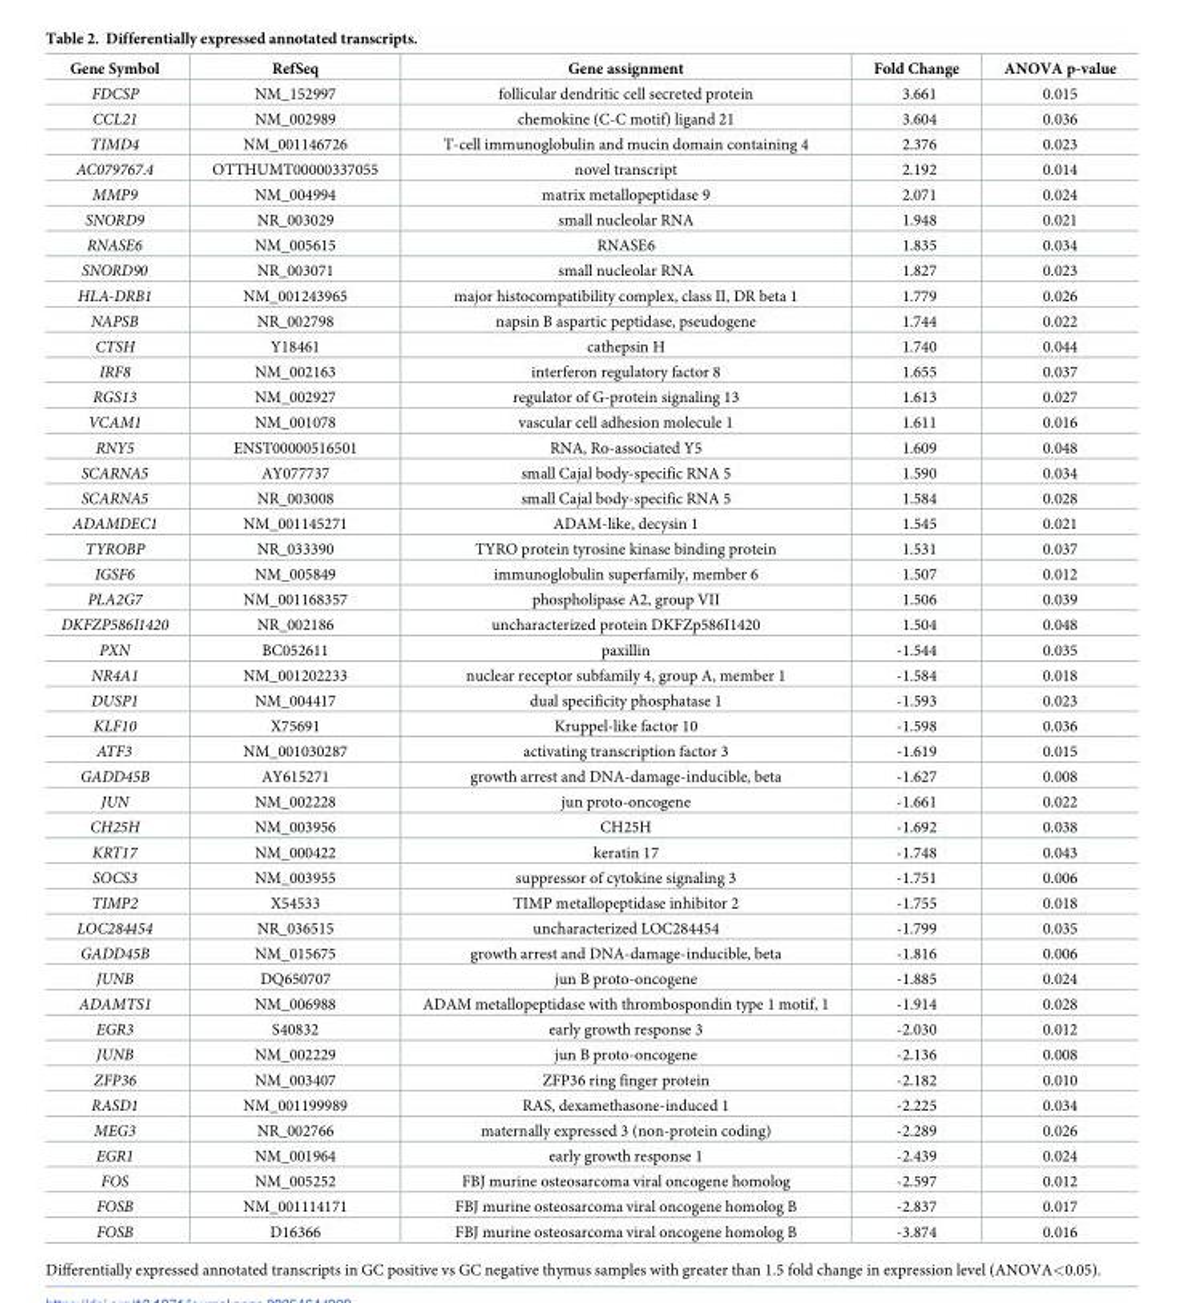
<table><thead><tr><td>Gene Symbol</td><td>RefSeq</td><td>Gene assignment</td><td>Fold Change</td><td>ANOVA p-value</td></tr></thead><tbody><tr><td>FDCSP</td><td>NM_152997</td><td>follicular dendritic cell secreted protein</td><td>3.661</td><td>0.015</td></tr><tr><td>CCL21</td><td>NM_002989</td><td>chemokine (C-C motif) ligand 21</td><td>3.604</td><td>0.036</td></tr><tr><td>TIMD4</td><td>NM_001146726</td><td>T-cell immunoglobulin and mucin domain containing 4</td><td>2.376</td><td>0.023</td></tr><tr><td>AC079767.4</td><td>OTTHUMT00000337055</td><td>novel transcript</td><td>2.192</td><td>0.014</td></tr><tr><td>MMP9</td><td>NM_004994</td><td>matrix metallopeptidase 9</td><td>2.071</td><td>0.024</td></tr><tr><td>SNORD9</td><td>NR_003029</td><td>small nucleolar RNA</td><td>1.948</td><td>0.021</td></tr><tr><td>RNASE6</td><td>NM_005615</td><td>RNASE6</td><td>1.835</td><td>0.034</td></tr><tr><td>SNORD90</td><td>NR_003071</td><td>small nucleolar RNA</td><td>1.827</td><td>0.023</td></tr><tr><td>HLA-DRB1</td><td>NM_001243965</td><td>major histocompatibility complex, class II, DR beta 1</td><td>1.779</td><td>0.026</td></tr><tr><td>NAPSB</td><td>NR_002798</td><td>napsin B aspartic peptidase, pseudogene</td><td>1.744</td><td>0.022</td></tr><tr><td>CTSH</td><td>Y18461</td><td>cathepsin H</td><td>1.740</td><td>0.044</td></tr><tr><td>IRF8</td><td>NM_002163</td><td>interferon regulatory factor 8</td><td>1.655</td><td>0.037</td></tr><tr><td>RGS13</td><td>NM_002927</td><td>regulator of G-protein signaling 13</td><td>1.613</td><td>0.027</td></tr><tr><td>VCAM1</td><td>NM_001078</td><td>vascular cell adhesion molecule 1</td><td>1.611</td><td>0.016</td></tr><tr><td>RNY5</td><td>ENST00000516501</td><td>RNA, Ro-associated Y5</td><td>1.609</td><td>0.048</td></tr><tr><td>SCARNA5</td><td>AY077737</td><td>small Cajal body-specific RNA 5</td><td>1.590</td><td>0.034</td></tr><tr><td>SCARNA5</td><td>NR_003008</td><td>small Cajal body-specific RNA 5</td><td>1.584</td><td>0.028</td></tr><tr><td>ADAMDEC1</td><td>NM_001145271</td><td>ADAM-like, decysin 1</td><td>1.545</td><td>0.021</td></tr><tr><td>TYROBP</td><td>NR_033390</td><td>TYRO protein tyrosine kinase binding protein</td><td>1.531</td><td>0.037</td></tr><tr><td>IGSF6</td><td>NM_005849</td><td>immunoglobulin superfamily, member 6</td><td>1.507</td><td>0.012</td></tr><tr><td>PLA2G7</td><td>NM_001168357</td><td>phospholipase A2, group VII</td><td>1.506</td><td>0.039</td></tr><tr><td>DKFZP586I1420</td><td>NR_002186</td><td>uncharacterized protein DKFZp586I1420</td><td>1.504</td><td>0.048</td></tr><tr><td>PXN</td><td>BC052611</td><td>paxillin</td><td>-1.544</td><td>0.035</td></tr><tr><td>NR4A1</td><td>NM_001202233</td><td>nuclear receptor subfamily 4, group A, member 1</td><td>-1.584</td><td>0.018</td></tr><tr><td>DUSP1</td><td>NM_004417</td><td>dual specificity phosphatase 1</td><td>-1.593</td><td>0.023</td></tr><tr><td>KLF10</td><td>X75691</td><td>Kruppel-like factor 10</td><td>-1.598</td><td>0.036</td></tr><tr><td>ATF3</td><td>NM_001030287</td><td>activating transcription factor 3</td><td>-1.619</td><td>0.015</td></tr><tr><td>GADD45B</td><td>AY615271</td><td>growth arrest and DNA-damage-inducible, beta</td><td>-1.627</td><td>0.008</td></tr><tr><td>JUN</td><td>NM_002228</td><td>jun proto-oncogene</td><td>-1.661</td><td>0.022</td></tr><tr><td>CH25H</td><td>NM_003956</td><td>CH25H</td><td>-1.692</td><td>0.038</td></tr><tr><td>KRT17</td><td>NM_000422</td><td>keratin 17</td><td>-1.748</td><td>0.043</td></tr><tr><td>SOCS3</td><td>NM_003955</td><td>suppressor of cytokine signaling 3</td><td>-1.751</td><td>0.006</td></tr><tr><td>TIMP2</td><td>X54533</td><td>TIMP metallopeptidase inhibitor 2</td><td>-1.755</td><td>0.018</td></tr><tr><td>LOC284454</td><td>NR_036515</td><td>uncharacterized LOC284454</td><td>-1.799</td><td>0.035</td></tr><tr><td>GADD45B</td><td>NM_015675</td><td>growth arrest and DNA-damage-inducible, beta</td><td>-1.816</td><td>0.006</td></tr><tr><td>JUNB</td><td>DQ650707</td><td>jun B proto-oncogene</td><td>-1.885</td><td>0.024</td></tr><tr><td>ADAMTS1</td><td>NM_006988</td><td>ADAM metallopeptidase with thrombospondin type 1 motif, 1</td><td>-1.914</td><td>0.028</td></tr><tr><td>EGR3</td><td>S40832</td><td>early growth response 3</td><td>-2.030</td><td>0.012</td></tr><tr><td>JUNB</td><td>NM_002229</td><td>jun B proto-oncogene</td><td>-2.136</td><td>0.008</td></tr><tr><td>ZFP36</td><td>NM_003407</td><td>ZFP36 ring finger protein</td><td>-2.182</td><td>0.010</td></tr><tr><td>RASD1</td><td>NM_001199989</td><td>RAS, dexamethasone-induced 1</td><td>-2.225</td><td>0.034</td></tr><tr><td>MEG3</td><td>NR_002766</td><td>maternally expressed 3 (non-protein coding)</td><td>-2.289</td><td>0.026</td></tr><tr><td>EGR1</td><td>NM_001964</td><td>early growth response 1</td><td>-2.439</td><td>0.024</td></tr><tr><td>FOS</td><td>NM_005252</td><td>FBJ murine osteosarcoma viral oncogene homolog</td><td>-2.597</td><td>0.012</td></tr><tr><td>FOSB</td><td>NM_001114171</td><td>FBJ murine osteosarcoma viral oncogene homolog B</td><td>-2.837</td><td>0.017</td></tr><tr><td>FOSB</td><td>D16366</td><td>FBJ murine osteosarcoma viral oncogene homolog B</td><td>-3.874</td><td>0.016</td></tr></tbody></table>